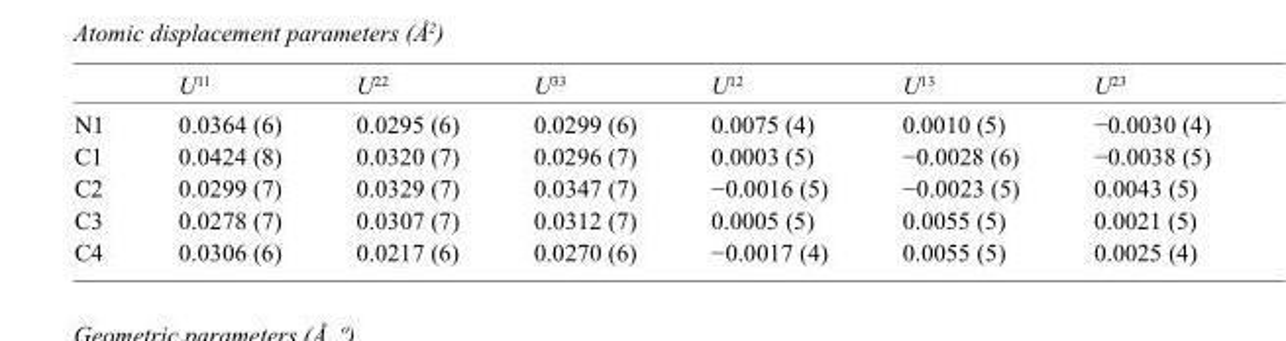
<table><thead><tr><td></td><td>U<sup>11</sup></td><td>U<sup>22</sup></td><td>U<sup>33</sup></td><td>U<sup>12</sup></td><td>U<sup>13</sup></td><td>U<sup>23</sup></td></tr></thead><tbody><tr><td>N1</td><td>0.0364 (6)</td><td>0.0295 (6)</td><td>0.0299 (6)</td><td>0.0075 (4)</td><td>0.0010 (5)</td><td>−0.0030 (4)</td></tr><tr><td>C1</td><td>0.0424 (8)</td><td>0.0320 (7)</td><td>0.0296 (7)</td><td>0.0003 (5)</td><td>−0.0028 (6)</td><td>−0.0038 (5)</td></tr><tr><td>C2</td><td>0.0299 (7)</td><td>0.0329 (7)</td><td>0.0347 (7)</td><td>−0.0016 (5)</td><td>−0.0023 (5)</td><td>0.0043 (5)</td></tr><tr><td>C3</td><td>0.0278 (7)</td><td>0.0307 (7)</td><td>0.0312 (7)</td><td>0.0005 (5)</td><td>0.0055 (5)</td><td>0.0021 (5)</td></tr><tr><td>C4</td><td>0.0306 (6)</td><td>0.0217 (6)</td><td>0.0270 (6)</td><td>−0.0017 (4)</td><td>0.0055 (5)</td><td>0.0025 (4)</td></tr></tbody></table>